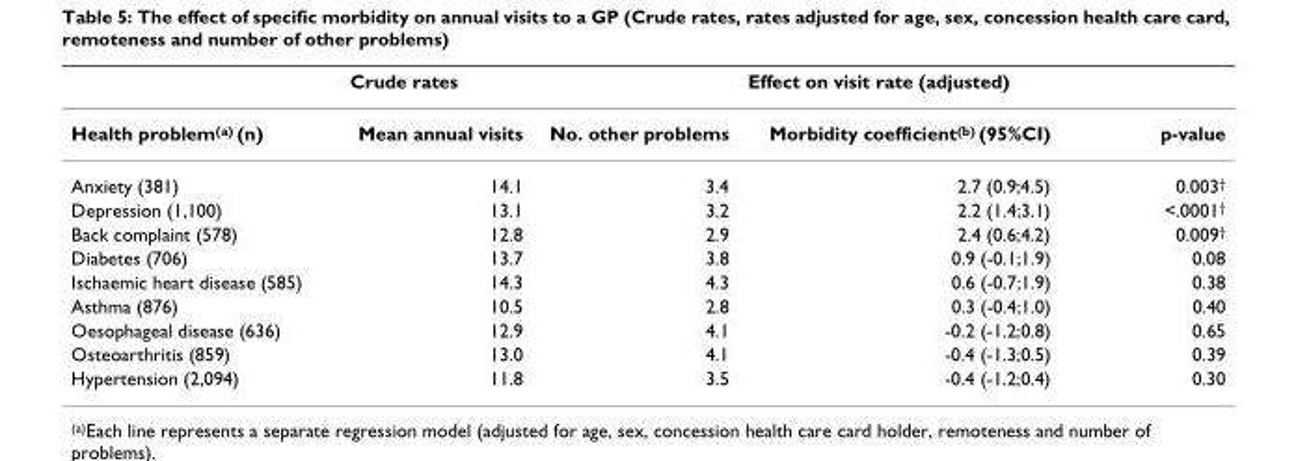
<table><thead><tr><td rowspan="2">Health problem<sup>(a)</sup> (n)</td><td colspan="2">Crude rates</td><td colspan="2">Effect on visit rate (adjusted)</td></tr><tr><td>Mean annual visits</td><td>No. other problems</td><td>Morbidity coefficient<sup>(b)</sup> (95%CI)</td><td>p-value</td></tr></thead><tbody><tr><td>Anxiety (381)</td><td>14.1</td><td>3.4</td><td>2.7 (0.9;4.5)</td><td>0.003<sup>†</sup></td></tr><tr><td>Depression (1,100)</td><td>13.1</td><td>3.2</td><td>2.2 (1.4;3.1)</td><td>&lt;.0001<sup>†</sup></td></tr><tr><td>Back complaint (578)</td><td>12.8</td><td>2.9</td><td>2.4 (0.6;4.2)</td><td>0.009<sup>†</sup></td></tr><tr><td>Diabetes (706)</td><td>13.7</td><td>3.8</td><td>0.9 (-0.1;1.9)</td><td>0.08</td></tr><tr><td>Ischaemic heart disease (585)</td><td>14.3</td><td>4.3</td><td>0.6 (-0.7;1.9)</td><td>0.38</td></tr><tr><td>Asthma (876)</td><td>10.5</td><td>2.8</td><td>0.3 (-0.4;1.0)</td><td>0.40</td></tr><tr><td>Oesophageal disease (636)</td><td>12.9</td><td>4.1</td><td>-0.2 (-1.2;0.8)</td><td>0.65</td></tr><tr><td>Osteoarthritis (859)</td><td>13.0</td><td>4.1</td><td>-0.4 (-1.3;0.5)</td><td>0.39</td></tr><tr><td>Hypertension (2,094)</td><td>11.8</td><td>3.5</td><td>-0.4 (-1.2;0.4)</td><td>0.30</td></tr></tbody></table>